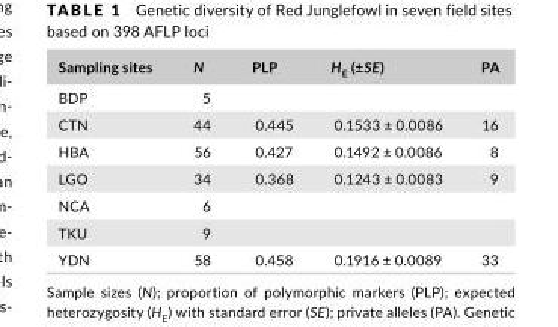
<table><thead><tr><td>Sampling sites</td><td>N</td><td>PLP</td><td>H<sub>E</sub> (±SE)</td><td>PA</td></tr></thead><tbody><tr><td>BDP</td><td>5</td><td></td><td></td><td></td></tr><tr><td>CTN</td><td>44</td><td>0.445</td><td>0.1533 ± 0.0086</td><td>16</td></tr><tr><td>HBA</td><td>56</td><td>0.427</td><td>0.1492 ± 0.0086</td><td>8</td></tr><tr><td>LGO</td><td>34</td><td>0.368</td><td>0.1243 ± 0.0083</td><td>9</td></tr><tr><td>NCA</td><td>6</td><td></td><td></td><td></td></tr><tr><td>TKU</td><td>9</td><td></td><td></td><td></td></tr><tr><td>YDN</td><td>58</td><td>0.458</td><td>0.1916 ± 0.0089</td><td>33</td></tr></tbody></table>